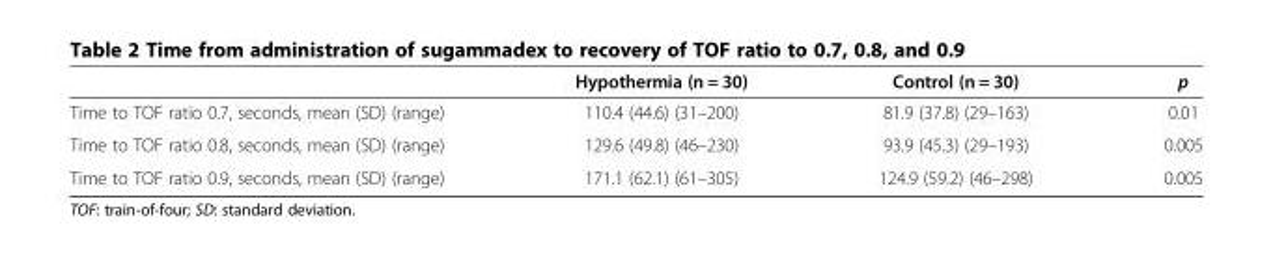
<table><thead><tr><td></td><td>Hypothermia (n = 30)</td><td>Control (n = 30)</td><td>p</td></tr></thead><tbody><tr><td>Time to TOF ratio 0.7, seconds, mean (SD) (range)</td><td>110.4 (44.6) (31–200)</td><td>81.9 (37.8) (29–163)</td><td>0.01</td></tr><tr><td>Time to TOF ratio 0.8, seconds, mean (SD) (range)</td><td>129.6 (49.8) (46–230)</td><td>93.9 (45.3) (29–193)</td><td>0.005</td></tr><tr><td>Time to TOF ratio 0.9, seconds, mean (SD) (range)</td><td>171.1 (62.1) (61–305)</td><td>124.9 (59.2) (46–298)</td><td>0.005</td></tr></tbody></table>